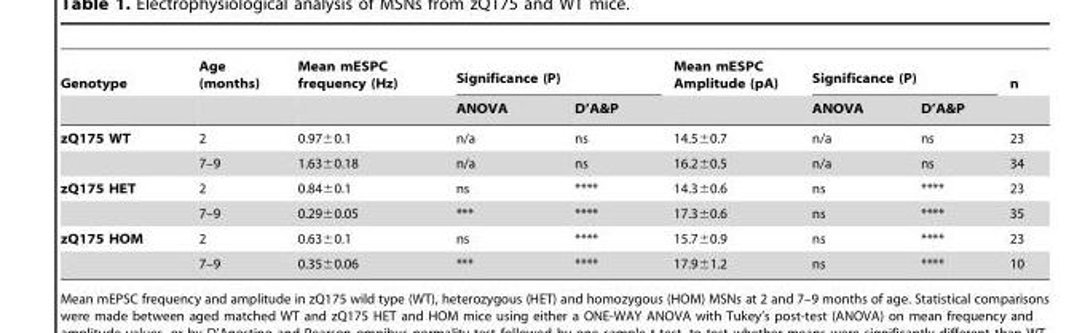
<table><thead><tr><td rowspan="2">Genotype</td><td rowspan="2">Age (months)</td><td rowspan="2">Mean mESPC frequency (Hz)</td><td colspan="2">Significance (P)</td><td rowspan="2">Mean mESPC Amplitude (pA)</td><td colspan="2">Significance (P)</td><td rowspan="2">n</td></tr><tr><td>ANOVA</td><td>D’A&amp;P</td><td>ANOVA</td><td>D’A&amp;P</td></tr></thead><tbody><tr><td rowspan="2">zQ175 WT</td><td>2</td><td>0.97±0.1</td><td>n/a</td><td>ns</td><td>14.5±0.7</td><td>n/a</td><td>ns</td><td>23</td></tr><tr><td>7–9</td><td>1.63±0.18</td><td>n/a</td><td>ns</td><td>16.2±0.5</td><td>n/a</td><td>ns</td><td>34</td></tr><tr><td rowspan="2">zQ175 HET</td><td>2</td><td>0.84±0.1</td><td>ns</td><td>****</td><td>14.3±0.6</td><td>ns</td><td>****</td><td>23</td></tr><tr><td>7–9</td><td>0.29±0.05</td><td>***</td><td>****</td><td>17.3±0.6</td><td>ns</td><td>****</td><td>35</td></tr><tr><td rowspan="2">zQ175 HOM</td><td>2</td><td>0.63±0.1</td><td>ns</td><td>****</td><td>15.7±0.9</td><td>ns</td><td>****</td><td>23</td></tr><tr><td>7–9</td><td>0.35±0.06</td><td>***</td><td>****</td><td>17.9±1.2</td><td>ns</td><td>****</td><td>10</td></tr></tbody></table>